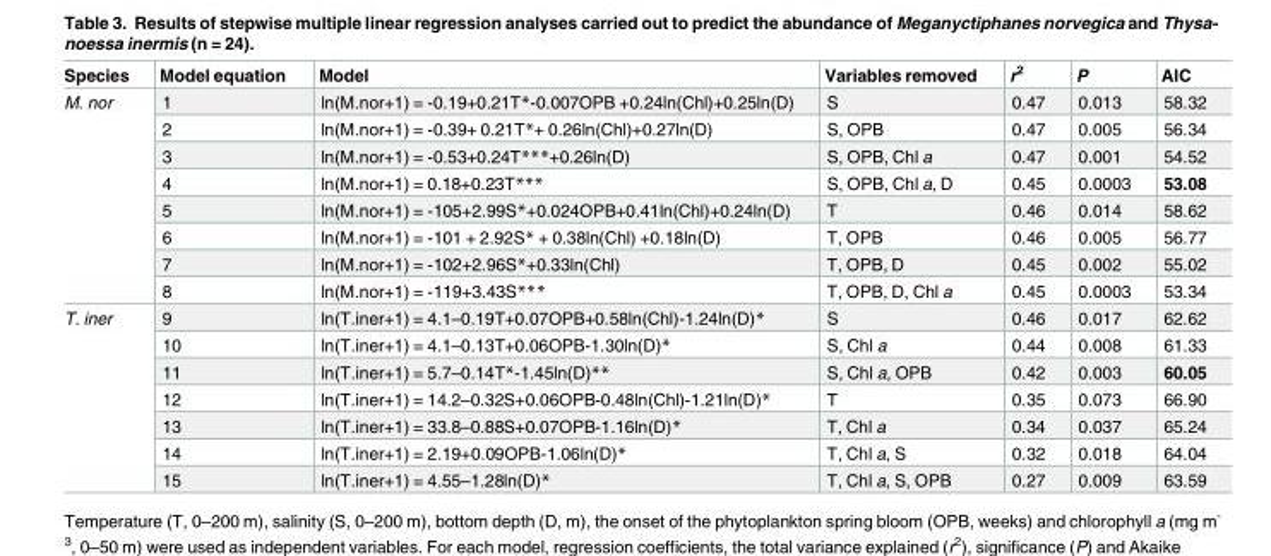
<table><thead><tr><td>Species</td><td>Model equation</td><td>Model</td><td>Variables removed</td><td>r<sup>2</sup></td><td>P</td><td>AIC</td></tr></thead><tbody><tr><td rowspan="8">M. nor</td><td>1</td><td>ln(M.nor+1) = -0.19+0.21T*-0.007OPB +0.24ln(Chl)+0.25ln(D)</td><td>S</td><td>0.47</td><td>0.013</td><td>58.32</td></tr><tr><td>2</td><td>ln(M.nor+1) = -0.39+ 0.21T*+ 0.26ln(Chl)+0.27ln(D)</td><td>S, OPB</td><td>0.47</td><td>0.005</td><td>56.34</td></tr><tr><td>3</td><td>ln(M.nor+1) = -0.53+0.24T***+0.26ln(D)</td><td>S, OPB, Chl a</td><td>0.47</td><td>0.001</td><td>54.52</td></tr><tr><td>4</td><td>ln(M.nor+1) = 0.18+0.23T***</td><td>S, OPB, Chl a, D</td><td>0.45</td><td>0.0003</td><td>53.08</td></tr><tr><td>5</td><td>ln(M.nor+1) = -105+2.99S*+0.024OPB+0.41ln(Chl)+0.24ln(D)</td><td>T</td><td>0.46</td><td>0.014</td><td>58.62</td></tr><tr><td>6</td><td>ln(M.nor+1) = -101 + 2.92S* + 0.38ln(Chl) +0.18ln(D)</td><td>T, OPB</td><td>0.46</td><td>0.005</td><td>56.77</td></tr><tr><td>7</td><td>ln(M.nor+1) = -102+2.96S*+0.33ln(Chl)</td><td>T, OPB, D</td><td>0.45</td><td>0.002</td><td>55.02</td></tr><tr><td>8</td><td>ln(M.nor+1) = -119+3.43S***</td><td>T, OPB, D, Chl a</td><td>0.45</td><td>0.0003</td><td>53.34</td></tr><tr><td rowspan="7">T. iner</td><td>9</td><td>ln(T.iner+1) = 4.1–0.19T+0.07OPB+0.58ln(Chl)-1.24ln(D)*</td><td>S</td><td>0.46</td><td>0.017</td><td>62.62</td></tr><tr><td>10</td><td>ln(T.iner+1) = 4.1–0.13T+0.06OPB-1.30ln(D)*</td><td>S, Chl a</td><td>0.44</td><td>0.008</td><td>61.33</td></tr><tr><td>11</td><td>ln(T.iner+1) = 5.7–0.14T*-1.45ln(D)**</td><td>S, Chl a, OPB</td><td>0.42</td><td>0.003</td><td>60.05</td></tr><tr><td>12</td><td>ln(T.iner+1) = 14.2–0.32S+0.06OPB-0.48ln(Chl)-1.21ln(D)*</td><td>T</td><td>0.35</td><td>0.073</td><td>66.90</td></tr><tr><td>13</td><td>ln(T.iner+1) = 33.8–0.88S+0.07OPB-1.16ln(D)*</td><td>T, Chl a</td><td>0.34</td><td>0.037</td><td>65.24</td></tr><tr><td>14</td><td>ln(T.iner+1) = 2.19+0.09OPB-1.06ln(D)*</td><td>T, Chl a, S</td><td>0.32</td><td>0.018</td><td>64.04</td></tr><tr><td>15</td><td>ln(T.iner+1) = 4.55–1.28ln(D)*</td><td>T, Chl a, S, OPB</td><td>0.27</td><td>0.009</td><td>63.59</td></tr></tbody></table>